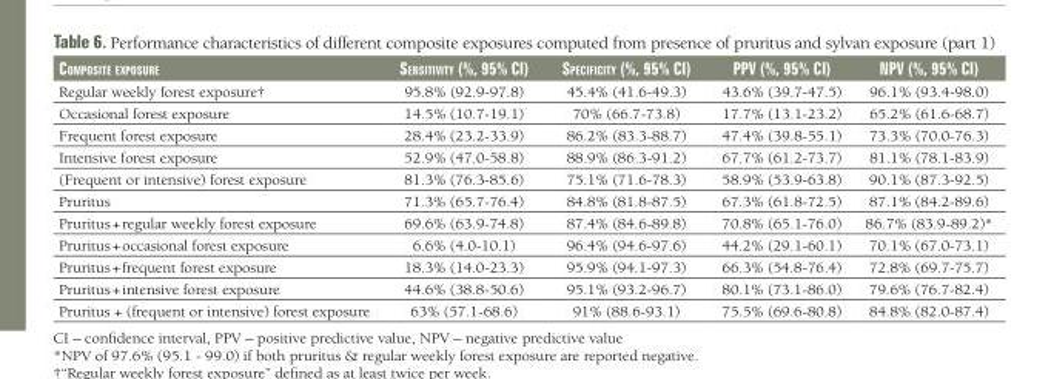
<table><tbody><tr><td>comPosiTe exPosure</td><td>seNsiTiviTy (%, 95% ci)</td><td>sPecificiTy (%, 95% ci)</td><td>PPv (%, 95% ci)</td><td>NPv (%, 95% ci)</td></tr><tr><td>Regular weekly forest exposure†</td><td>95.8% (92.9-97.8)</td><td>45.4% (41.6-49.3)</td><td>43.6% (39.7-47.5)</td><td>96.1% (93.4-98.0)</td></tr><tr><td>Occasional forest exposure</td><td>14.5% (10.7-19.1)</td><td>70% (66.7-73.8)</td><td>17.7% (13.1-23.2)</td><td>65.2% (61.6-68.7)</td></tr><tr><td>Frequent forest exposure</td><td>28.4% (23.2-33.9)</td><td>86.2% (83.3-88.7)</td><td>47.4% (39.8-55.1)</td><td>73.3% (70.0-76.3)</td></tr><tr><td>Intensive forest exposure</td><td>52.9% (47.0-58.8)</td><td>88.9% (86.3-91.2)</td><td>67.7% (61.2-73.7)</td><td>81.1% (78.1-83.9)</td></tr><tr><td>(Frequent or intensive) forest exposure</td><td>81.3% (76.3-85.6)</td><td>75.1% (71.6-78.3)</td><td>58.9% (53.9-63.8)</td><td>90.1% (87.3-92.5)</td></tr><tr><td>Pruritus</td><td>71.3% (65.7-76.4)</td><td>84.8% (81.8-87.5)</td><td>67.3% (61.8-72.5)</td><td>87.1% (84.2-89.6)</td></tr><tr><td>Pruritus + regular weekly forest exposure</td><td>69.6% (63.9-74.8)</td><td>87.4% (84.6-89.8)</td><td>70.8% (65.1-76.0)</td><td>86.7% (83.9-89.2)*</td></tr><tr><td>Pruritus + occasional forest exposure</td><td>6.6% (4.0-10.1)</td><td>96.4% (94.6-97.6)</td><td>44.2% (29.1-60.1)</td><td>70.1% (67.0-73.1)</td></tr><tr><td>Pruritus + frequent forest exposure</td><td>18.3% (14.0-23.3)</td><td>95.9% (94.1-97.3)</td><td>66.3% (54.8-76.4)</td><td>72.8% (69.7-75.7)</td></tr><tr><td>Pruritus + intensive forest exposure</td><td>44.6% (38.8-50.6)</td><td>95.1% (93.2-96.7)</td><td>80.1% (73.1-86.0)</td><td>79.6% (76.7-82.4)</td></tr><tr><td>Pruritus + (frequent or intensive) forest exposure</td><td>63% (57.1-68.6)</td><td>91% (88.6-93.1)</td><td>75.5% (69.6-80.8)</td><td>84.8% (82.0-87.4)</td></tr></tbody></table>